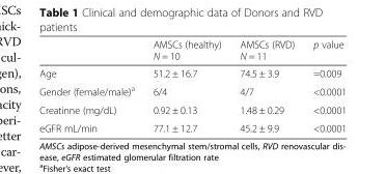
<table><thead><tr><td></td><td>AMSCs (healthy) N = 10</td><td>AMSCs (RVD) N = 11</td><td>p value</td></tr></thead><tbody><tr><td>Age</td><td>51.2 ± 16.7</td><td>74.5 ± 3.9</td><td>=0.009</td></tr><tr><td>Gender (female/male)<sup>a</sup></td><td>6/4</td><td>4/7</td><td>&lt;0.0001</td></tr><tr><td>Creatinne (mg/dL)</td><td>0.92 ± 0.13</td><td>1.48 ± 0.29</td><td>&lt;0.0001</td></tr><tr><td>eGFR mL/min</td><td>77.1 ± 12.7</td><td>45.2 ± 9.9</td><td>&lt;0.0001</td></tr></tbody></table>